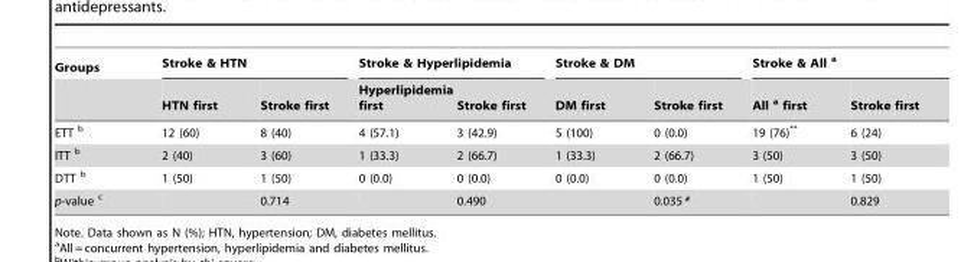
<table><thead><tr><td rowspan="2">Groups</td><td colspan="2">Stroke &amp; HTN</td><td colspan="2">Stroke &amp; Hyperlipidemia</td><td colspan="2">Stroke &amp; DM</td><td colspan="2">Stroke &amp; All a</td></tr><tr><td>HTN first</td><td>Stroke first</td><td>Hyperlipidemia first</td><td>Stroke first</td><td>DM first</td><td>Stroke first</td><td>All a first</td><td>Stroke first</td></tr></thead><tbody><tr><td>ETT b</td><td>12 (60)</td><td>8 (40)</td><td>4 (57.1)</td><td>3 (42.9)</td><td>5 (100)</td><td>0 (0.0)</td><td>19 (76)**</td><td>6 (24)</td></tr><tr><td>ITT b</td><td>2 (40)</td><td>3 (60)</td><td>1 (33.3)</td><td>2 (66.7)</td><td>1 (33.3)</td><td>2 (66.7)</td><td>3 (50)</td><td>3 (50)</td></tr><tr><td>DTT b</td><td>1 (50)</td><td>1 (50)</td><td>0 (0.0)</td><td>0 (0.0)</td><td>0 (0.0)</td><td>0 (0.0)</td><td>1 (50)</td><td>1 (50)</td></tr><tr><td>p-value c</td><td></td><td>0.714</td><td></td><td>0.490</td><td></td><td>0.035*</td><td></td><td>0.829</td></tr></tbody></table>